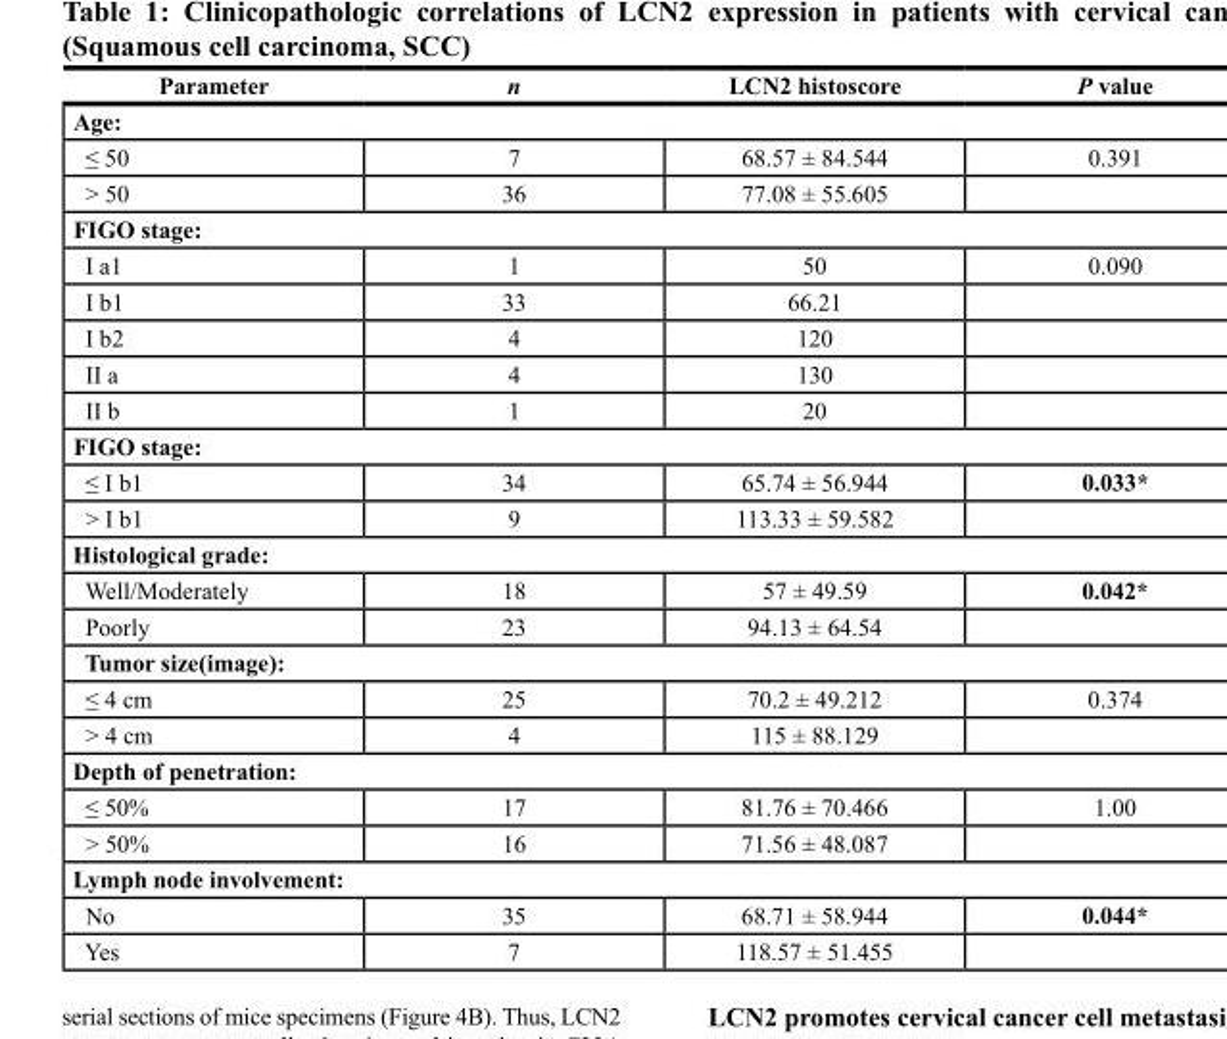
<table><thead><tr><td>Parameter</td><td>n</td><td>lcn2 histoscore</td><td>P value</td></tr></thead><tbody><tr><td colspan="4">Age:</td></tr><tr><td>≤ 50</td><td>7</td><td>68.57 ± 84.544</td><td>0.391</td></tr><tr><td>&gt; 50</td><td>36</td><td>77.08 ± 55.605</td><td></td></tr><tr><td colspan="4">FIGo stage:</td></tr><tr><td>I a1</td><td>1</td><td>50</td><td>0.090</td></tr><tr><td>I b1</td><td>33</td><td>66.21</td><td></td></tr><tr><td>I b2</td><td>4</td><td>120</td><td></td></tr><tr><td>II a</td><td>4</td><td>130</td><td></td></tr><tr><td>II b</td><td>1</td><td>20</td><td></td></tr><tr><td colspan="4">FIGo stage:</td></tr><tr><td>≤ I b1</td><td>34</td><td>65.74 ± 56.944</td><td>0.033*</td></tr><tr><td>&gt; I b1</td><td>9</td><td>113.33 ± 59.582</td><td></td></tr><tr><td colspan="4">Histological grade:</td></tr><tr><td>Well/Moderately</td><td>18</td><td>57 ± 49.59</td><td>0.042*</td></tr><tr><td>Poorly</td><td>23</td><td>94.13 ± 64.54</td><td></td></tr><tr><td colspan="4">tumor size(image):</td></tr><tr><td>≤ 4 cm</td><td>25</td><td>70.2 ± 49.212</td><td>0.374</td></tr><tr><td>&gt; 4 cm</td><td>4</td><td>115 ± 88.129</td><td></td></tr><tr><td colspan="4">depth of penetration:</td></tr><tr><td>≤ 50%</td><td>17</td><td>81.76 ± 70.466</td><td>1.00</td></tr><tr><td>&gt; 50%</td><td>16</td><td>71.56 ± 48.087</td><td></td></tr><tr><td colspan="4">lymph node involvement:</td></tr><tr><td>No</td><td>35</td><td>68.71 ± 58.944</td><td>0.044*</td></tr><tr><td>Yes</td><td>7</td><td>118.57 ± 51.455</td><td></td></tr></tbody></table>